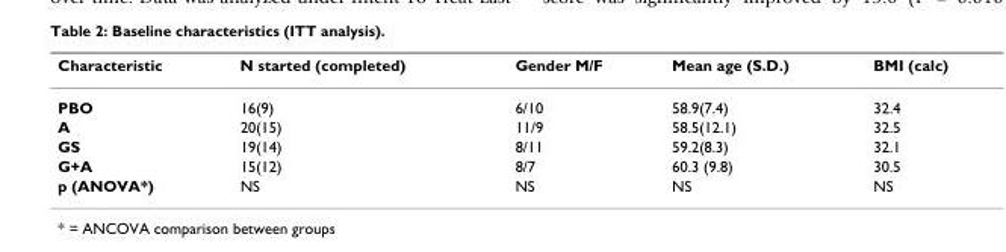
<table><thead><tr><td>Characteristic</td><td>N started (completed)</td><td>Gender M/F</td><td>Mean age (S.D.)</td><td>BMI (calc)</td></tr></thead><tbody><tr><td>PBO</td><td>16(9)</td><td>6/10</td><td>58.9(7.4)</td><td>32.4</td></tr><tr><td>A</td><td>20(15)</td><td>11/9</td><td>58.5(12.1)</td><td>32.5</td></tr><tr><td>GS</td><td>19(14)</td><td>8/11</td><td>59.2(8.3)</td><td>32.1</td></tr><tr><td>G+A</td><td>15(12)</td><td>8/7</td><td>60.3 (9.8)</td><td>30.5</td></tr><tr><td>p (ANOVA*)</td><td>NS</td><td>NS</td><td>NS</td><td>NS</td></tr></tbody></table>